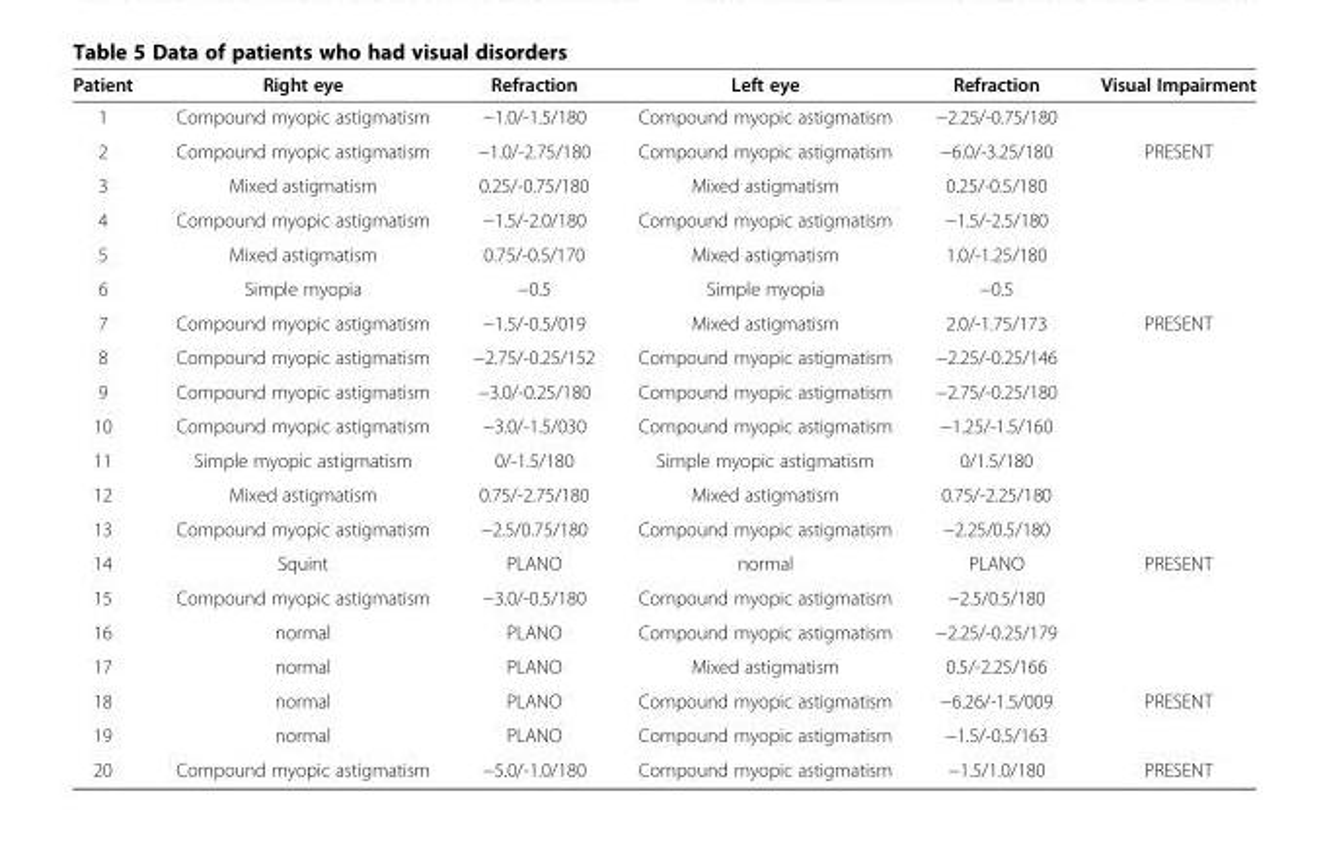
<table><thead><tr><td>Patient</td><td>Right eye</td><td>Refraction</td><td>Left eye</td><td>Refraction</td><td>Visual Impairment</td></tr></thead><tbody><tr><td>1</td><td>Compound myopic astigmatism</td><td>−1.0/-1.5/180</td><td>Compound myopic astigmatism</td><td>−2.25/-0.75/180</td><td></td></tr><tr><td>2</td><td>Compound myopic astigmatism</td><td>−1.0/-2.75/180</td><td>Compound myopic astigmatism</td><td>−6.0/-3.25/180</td><td>PRESENT</td></tr><tr><td>3</td><td>Mixed astigmatism</td><td>0.25/-0.75/180</td><td>Mixed astigmatism</td><td>0.25/-0.5/180</td><td></td></tr><tr><td>4</td><td>Compound myopic astigmatism</td><td>−1.5/-2.0/180</td><td>Compound myopic astigmatism</td><td>−1.5/-2.5/180</td><td></td></tr><tr><td>5</td><td>Mixed astigmatism</td><td>0.75/-0.5/170</td><td>Mixed astigmatism</td><td>1.0/-1.25/180</td><td></td></tr><tr><td>6</td><td>Simple myopia</td><td>−0.5</td><td>Simple myopia</td><td>−0.5</td><td></td></tr><tr><td>7</td><td>Compound myopic astigmatism</td><td>−1.5/-0.5/019</td><td>Mixed astigmatism</td><td>2.0/-1.75/173</td><td>PRESENT</td></tr><tr><td>8</td><td>Compound myopic astigmatism</td><td>−2.75/-0.25/152</td><td>Compound myopic astigmatism</td><td>−2.25/-0.25/146</td><td></td></tr><tr><td>9</td><td>Compound myopic astigmatism</td><td>−3.0/-0.25/180</td><td>Compound myopic astigmatism</td><td>−2.75/-0.25/180</td><td></td></tr><tr><td>10</td><td>Compound myopic astigmatism</td><td>−3.0/-1.5/030</td><td>Compound myopic astigmatism</td><td>−1.25/-1.5/160</td><td></td></tr><tr><td>11</td><td>Simple myopic astigmatism</td><td>0/-1.5/180</td><td>Simple myopic astigmatism</td><td>0/1.5/180</td><td></td></tr><tr><td>12</td><td>Mixed astigmatism</td><td>0.75/-2.75/180</td><td>Mixed astigmatism</td><td>0.75/-2.25/180</td><td></td></tr><tr><td>13</td><td>Compound myopic astigmatism</td><td>−2.5/0.75/180</td><td>Compound myopic astigmatism</td><td>−2.25/0.5/180</td><td></td></tr><tr><td>14</td><td>Squint</td><td>PLANO</td><td>normal</td><td>PLANO</td><td>PRESENT</td></tr><tr><td>15</td><td>Compound myopic astigmatism</td><td>−3.0/-0.5/180</td><td>Compound myopic astigmatism</td><td>−2.5/0.5/180</td><td></td></tr><tr><td>16</td><td>normal</td><td>PLANO</td><td>Compound myopic astigmatism</td><td>−2.25/-0.25/179</td><td></td></tr><tr><td>17</td><td>normal</td><td>PLANO</td><td>Mixed astigmatism</td><td>0.5/-2.25/166</td><td></td></tr><tr><td>18</td><td>normal</td><td>PLANO</td><td>Compound myopic astigmatism</td><td>−6.26/-1.5/009</td><td>PRESENT</td></tr><tr><td>19</td><td>normal</td><td>PLANO</td><td>Compound myopic astigmatism</td><td>−1.5/-0.5/163</td><td></td></tr><tr><td>20</td><td>Compound myopic astigmatism</td><td>−5.0/-1.0/180</td><td>Compound myopic astigmatism</td><td>−1.5/1.0/180</td><td>PRESENT</td></tr></tbody></table>